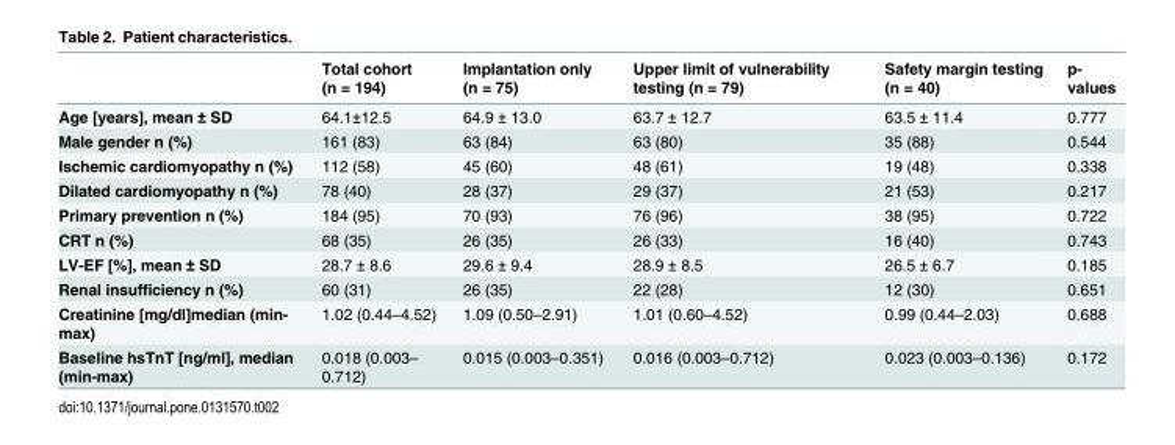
<table><thead><tr><td></td><td>Total cohort (n = 194)</td><td>Implantation only (n = 75)</td><td>Upper limit of vulnerability testing (n = 79)</td><td>Safety margin testing (n = 40)</td><td>p- values</td></tr></thead><tbody><tr><td>Age [years], mean ± SD</td><td>64.1±12.5</td><td>64.9 ± 13.0</td><td>63.7 ± 12.7</td><td>63.5 ± 11.4</td><td>0.777</td></tr><tr><td>Male gender n (%)</td><td>161 (83)</td><td>63 (84)</td><td>63 (80)</td><td>35 (88)</td><td>0.544</td></tr><tr><td>Ischemic cardiomyopathy n (%)</td><td>112 (58)</td><td>45 (60)</td><td>48 (61)</td><td>19 (48)</td><td>0.338</td></tr><tr><td>Dilated cardiomyopathy n (%)</td><td>78 (40)</td><td>28 (37)</td><td>29 (37)</td><td>21 (53)</td><td>0.217</td></tr><tr><td>Primary prevention n (%)</td><td>184 (95)</td><td>70 (93)</td><td>76 (96)</td><td>38 (95)</td><td>0.722</td></tr><tr><td>CRT n (%)</td><td>68 (35)</td><td>26 (35)</td><td>26 (33)</td><td>16 (40)</td><td>0.743</td></tr><tr><td>LV-EF [%], mean ± SD</td><td>28.7 ± 8.6</td><td>29.6 ± 9.4</td><td>28.9 ± 8.5</td><td>26.5 ± 6.7</td><td>0.185</td></tr><tr><td>Renal insufficiency n (%)</td><td>60 (31)</td><td>26 (35)</td><td>22 (28)</td><td>12 (30)</td><td>0.651</td></tr><tr><td>Creatinine [mg/dl]median (min- max)</td><td>1.02 (0.44–4.52)</td><td>1.09 (0.50–2.91)</td><td>1.01 (0.60–4.52)</td><td>0.99 (0.44–2.03)</td><td>0.688</td></tr><tr><td>Baseline hsTnT [ng/ml], median (min-max)</td><td>0.018 (0.003– 0.712)</td><td>0.015 (0.003–0.351)</td><td>0.016 (0.003–0.712)</td><td>0.023 (0.003–0.136)</td><td>0.172</td></tr></tbody></table>